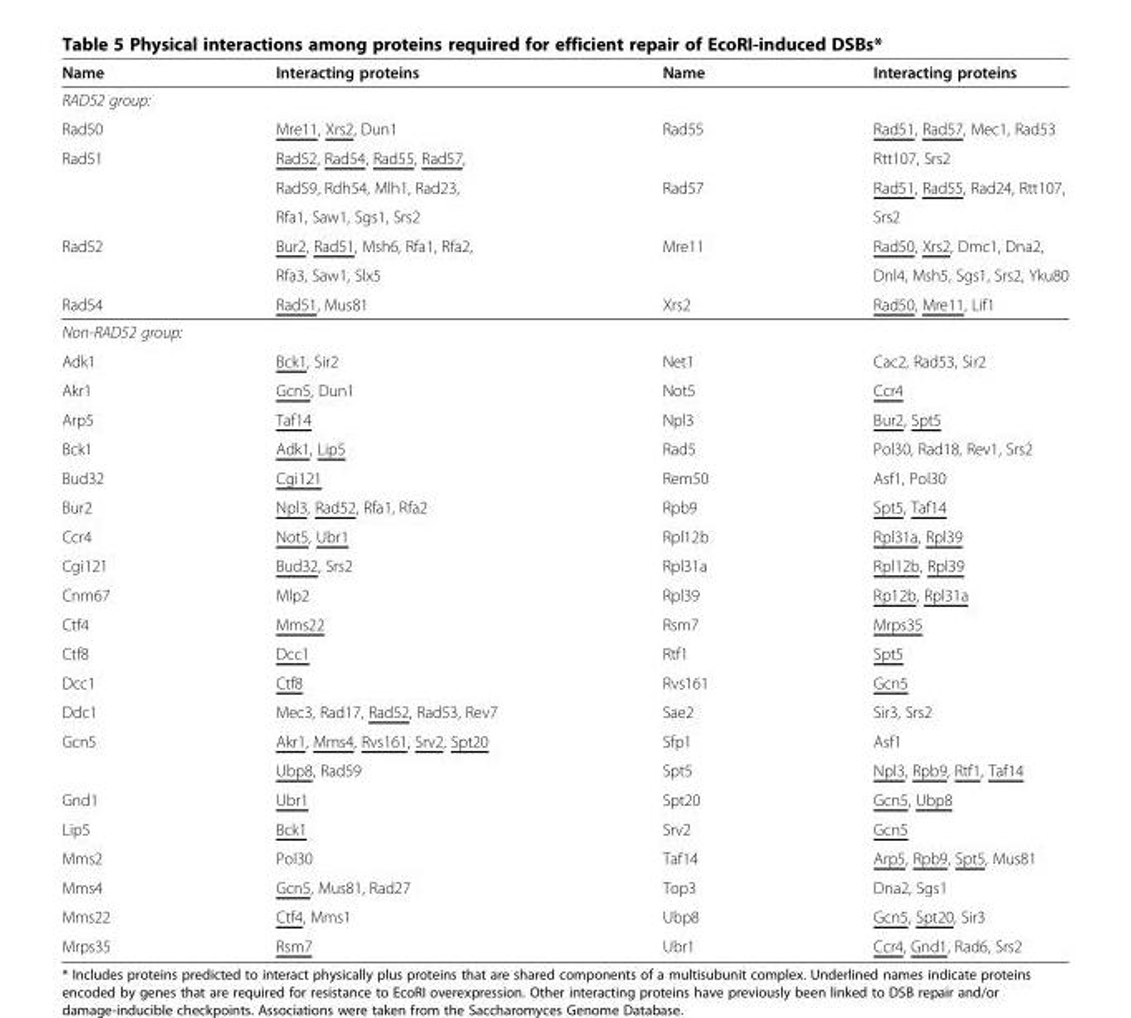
<table><thead><tr><td>Name</td><td>Interacting proteins</td><td>Name</td><td>Interacting proteins</td></tr></thead><tbody><tr><td colspan="4">RAD52 group:</td></tr><tr><td>Rad50</td><td>Mre11, Xrs2, Dun1</td><td>Rad55</td><td>Rad51, Rad57, Mec1, Rad53</td></tr><tr><td rowspan="3">Rad51</td><td>Rad52, Rad54, Rad55, Rad57,</td><td></td><td>Rtt107, Srs2</td></tr><tr><td>Rad59, Rdh54, Mlh1, Rad23,</td><td>Rad57</td><td>Rad51, Rad55, Rad24, Rtt107,</td></tr><tr><td>Rfa1, Saw1, Sgs1, Srs2</td><td></td><td>Srs2</td></tr><tr><td rowspan="2">Rad52</td><td>Bur2, Rad51, Msh6, Rfa1, Rfa2,</td><td>Mre11</td><td>Rad50, Xrs2, Dmc1, Dna2,</td></tr><tr><td>Rfa3, Saw1, Slx5</td><td></td><td>Dnl4, Msh5, Sgs1, Srs2, Yku80</td></tr><tr><td>Rad54</td><td>Rad51, Mus81</td><td>Xrs2</td><td>Rad50, Mre11, Lif1</td></tr><tr><td colspan="4">Non-RAD52 group:</td></tr><tr><td>Adk1</td><td>Bck1, Sir2</td><td>Net1</td><td>Cac2, Rad53, Sir2</td></tr><tr><td>Akr1</td><td>Gcn5, Dun1</td><td>Not5</td><td>Ccr4</td></tr><tr><td>Arp5</td><td>Taf14</td><td>Npl3</td><td>Bur2, Spt5</td></tr><tr><td>Bck1</td><td>Adk1, Lip5</td><td>Rad5</td><td>Pol30, Rad18, Rev1, Srs2</td></tr><tr><td>Bud32</td><td>Cgi121</td><td>Rem50</td><td>Asf1, Pol30</td></tr><tr><td>Bur2</td><td>Npl3, Rad52, Rfa1, Rfa2</td><td>Rpb9</td><td>Spt5, Taf14</td></tr><tr><td>Ccr4</td><td>Not5, Ubr1</td><td>Rpl12b</td><td>Rpl31a, Rpl39</td></tr><tr><td>Cgi121</td><td>Bud32, Srs2</td><td>Rpl31a</td><td>Rpl12b, Rpl39</td></tr><tr><td>Cnm67</td><td>Mlp2</td><td>Rpl39</td><td>Rp12b, Rpl31a</td></tr><tr><td>Ctf4</td><td>Mms22</td><td>Rsm7</td><td>Mrps35</td></tr><tr><td>Ctf8</td><td>Dcc1</td><td>Rtf1</td><td>Spt5</td></tr><tr><td>Dcc1</td><td>Ctf8</td><td>Rvs161</td><td>Gcn5</td></tr><tr><td>Ddc1</td><td>Mec3, Rad17, Rad52, Rad53, Rev7</td><td>Sae2</td><td>Sir3, Srs2</td></tr><tr><td rowspan="2">Gcn5</td><td>Akr1, Mms4, Rvs161, Srv2, Spt20</td><td>Sfp1</td><td>Asf1</td></tr><tr><td>Ubp8, Rad59</td><td>Spt5</td><td>Npl3, Rpb9, Rtf1, Taf14</td></tr><tr><td>Gnd1</td><td>Ubr1</td><td>Spt20</td><td>Gcn5, Ubp8</td></tr><tr><td>Lip5</td><td>Bck1</td><td>Srv2</td><td>Gcn5</td></tr><tr><td>Mms2</td><td>Pol30</td><td>Taf14</td><td>Arp5, Rpb9, Spt5, Mus81</td></tr><tr><td>Mms4</td><td>Gcn5, Mus81, Rad27</td><td>Top3</td><td>Dna2, Sgs1</td></tr><tr><td>Mms22</td><td>Ctf4, Mms1</td><td>Ubp8</td><td>Gcn5, Spt20, Sir3</td></tr><tr><td>Mrps35</td><td>Rsm7</td><td>Ubr1</td><td>Ccr4, Gnd1, Rad6, Srs2</td></tr></tbody></table>